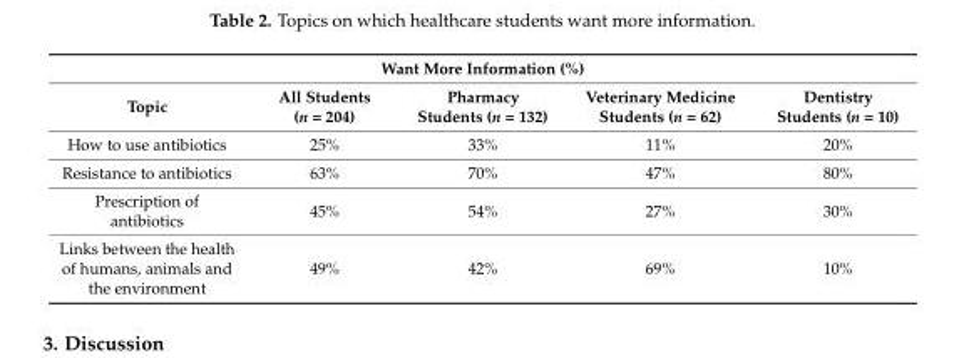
<table><thead><tr><td colspan="5">Want More Information (%)</td></tr><tr><td>Topic</td><td>All Students (n = 204)</td><td>Pharmacy Students (n = 132)</td><td>Veterinary Medicine Students (n = 62)</td><td>Dentistry Students (n = 10)</td></tr></thead><tbody><tr><td>How to use antibiotics</td><td>25%</td><td>33%</td><td>11%</td><td>20%</td></tr><tr><td>Resistance to antibiotics</td><td>63%</td><td>70%</td><td>47%</td><td>80%</td></tr><tr><td>Prescription of antibiotics</td><td>45%</td><td>54%</td><td>27%</td><td>30%</td></tr><tr><td>Links between the health of humans, animals and the environment</td><td>49%</td><td>42%</td><td>69%</td><td>10%</td></tr></tbody></table>